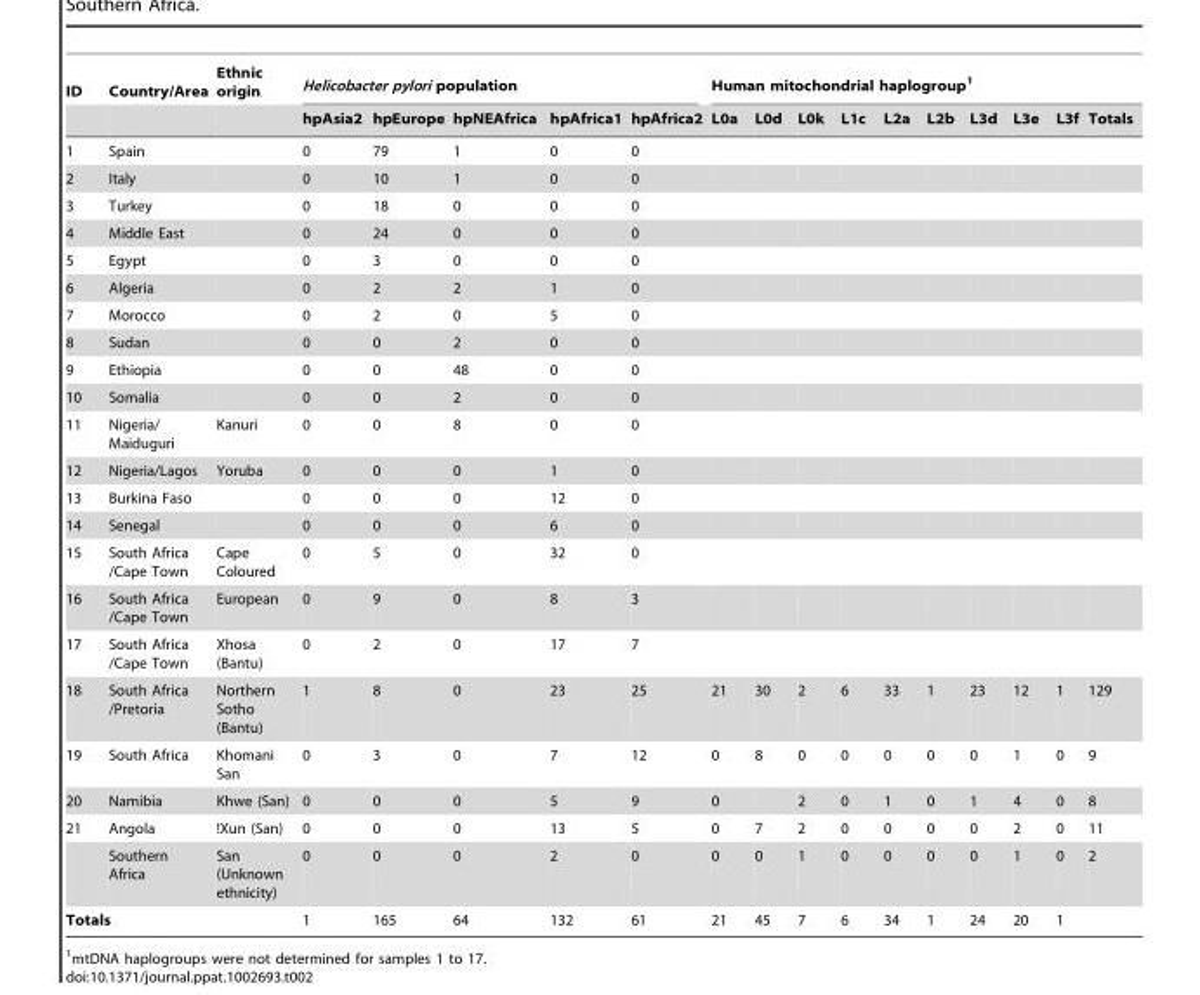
<table><thead><tr><td rowspan="2">ID</td><td rowspan="2">Country/Area</td><td rowspan="2">Ethnic origin</td><td colspan="5">Helicobacter pylori population</td><td colspan="10">Human mitochondrial haplogroup<sup>1</sup></td></tr><tr><td>hpAsia2</td><td>hpEurope</td><td>hpNEAfrica</td><td>hpAfrica1</td><td>hpAfrica2</td><td>L0a</td><td>L0d</td><td>L0k</td><td>L1c</td><td>L2a</td><td>L2b</td><td>L3d</td><td>L3e</td><td>L3f</td><td>Totals</td></tr></thead><tbody><tr><td>1</td><td>Spain</td><td></td><td>0</td><td>79</td><td>1</td><td>0</td><td>0</td><td></td><td></td><td></td><td></td><td></td><td></td><td></td><td></td><td></td><td></td></tr><tr><td>2</td><td>Italy</td><td></td><td>0</td><td>10</td><td>1</td><td>0</td><td>0</td><td></td><td></td><td></td><td></td><td></td><td></td><td></td><td></td><td></td><td></td></tr><tr><td>3</td><td>Turkey</td><td></td><td>0</td><td>18</td><td>0</td><td>0</td><td>0</td><td></td><td></td><td></td><td></td><td></td><td></td><td></td><td></td><td></td><td></td></tr><tr><td>4</td><td>Middle East</td><td></td><td>0</td><td>24</td><td>0</td><td>0</td><td>0</td><td></td><td></td><td></td><td></td><td></td><td></td><td></td><td></td><td></td><td></td></tr><tr><td>5</td><td>Egypt</td><td></td><td>0</td><td>3</td><td>0</td><td>0</td><td>0</td><td></td><td></td><td></td><td></td><td></td><td></td><td></td><td></td><td></td><td></td></tr><tr><td>6</td><td>Algeria</td><td></td><td>0</td><td>2</td><td>2</td><td>1</td><td>0</td><td></td><td></td><td></td><td></td><td></td><td></td><td></td><td></td><td></td><td></td></tr><tr><td>7</td><td>Morocco</td><td></td><td>0</td><td>2</td><td>0</td><td>5</td><td>0</td><td></td><td></td><td></td><td></td><td></td><td></td><td></td><td></td><td></td><td></td></tr><tr><td>8</td><td>Sudan</td><td></td><td>0</td><td>0</td><td>2</td><td>0</td><td>0</td><td></td><td></td><td></td><td></td><td></td><td></td><td></td><td></td><td></td><td></td></tr><tr><td>9</td><td>Ethiopia</td><td></td><td>0</td><td>0</td><td>48</td><td>0</td><td>0</td><td></td><td></td><td></td><td></td><td></td><td></td><td></td><td></td><td></td><td></td></tr><tr><td>10</td><td>Somalia</td><td></td><td>0</td><td>0</td><td>2</td><td>0</td><td>0</td><td></td><td></td><td></td><td></td><td></td><td></td><td></td><td></td><td></td><td></td></tr><tr><td>11</td><td>Nigeria/ Maiduguri</td><td>Kanuri</td><td>0</td><td>0</td><td>8</td><td>0</td><td>0</td><td></td><td></td><td></td><td></td><td></td><td></td><td></td><td></td><td></td><td></td></tr><tr><td>12</td><td>Nigeria/Lagos</td><td>Yoruba</td><td>0</td><td>0</td><td>0</td><td>1</td><td>0</td><td></td><td></td><td></td><td></td><td></td><td></td><td></td><td></td><td></td><td></td></tr><tr><td>13</td><td>Burkina Faso</td><td></td><td>0</td><td>0</td><td>0</td><td>12</td><td>0</td><td></td><td></td><td></td><td></td><td></td><td></td><td></td><td></td><td></td><td></td></tr><tr><td>14</td><td>Senegal</td><td></td><td>0</td><td>0</td><td>0</td><td>6</td><td>0</td><td></td><td></td><td></td><td></td><td></td><td></td><td></td><td></td><td></td><td></td></tr><tr><td>15</td><td>South Africa /Cape Town</td><td>Cape Coloured</td><td>0</td><td>5</td><td>0</td><td>32</td><td>0</td><td></td><td></td><td></td><td></td><td></td><td></td><td></td><td></td><td></td><td></td></tr><tr><td>16</td><td>South Africa /Cape Town</td><td>European</td><td>0</td><td>9</td><td>0</td><td>8</td><td>3</td><td></td><td></td><td></td><td></td><td></td><td></td><td></td><td></td><td></td><td></td></tr><tr><td>17</td><td>South Africa /Cape Town</td><td>Xhosa (Bantu)</td><td>0</td><td>2</td><td>0</td><td>17</td><td>7</td><td></td><td></td><td></td><td></td><td></td><td></td><td></td><td></td><td></td><td></td></tr><tr><td>18</td><td>South Africa /Pretoria</td><td>Northern Sotho (Bantu)</td><td>1</td><td>8</td><td>0</td><td>23</td><td>25</td><td>21</td><td>30</td><td>2</td><td>6</td><td>33</td><td>1</td><td>23</td><td>12</td><td>1</td><td>129</td></tr><tr><td>19</td><td>South Africa</td><td>Khomani San</td><td>0</td><td>3</td><td>0</td><td>7</td><td>12</td><td>0</td><td>8</td><td>0</td><td>0</td><td>0</td><td>0</td><td>0</td><td>1</td><td>0</td><td>9</td></tr><tr><td>20</td><td>Namibia</td><td>Khwe (San)</td><td>0</td><td>0</td><td>0</td><td>5</td><td>9</td><td>0</td><td></td><td>2</td><td>0</td><td>1</td><td>0</td><td>1</td><td>4</td><td>0</td><td>8</td></tr><tr><td rowspan="2">21</td><td>Angola</td><td>!Xun (San)</td><td>0</td><td>0</td><td>0</td><td>13</td><td>5</td><td>0</td><td>7</td><td>2</td><td>0</td><td>0</td><td>0</td><td>0</td><td>2</td><td>0</td><td>11</td></tr><tr><td>Southern Africa</td><td>San (Unknown ethnicity)</td><td>0</td><td>0</td><td>0</td><td>2</td><td>0</td><td>0</td><td>0</td><td>1</td><td>0</td><td>0</td><td>0</td><td>0</td><td>1</td><td>0</td><td>2</td></tr><tr><td colspan="2">Totals</td><td></td><td>1</td><td>165</td><td>64</td><td>132</td><td>61</td><td>21</td><td>45</td><td>7</td><td>6</td><td>34</td><td>1</td><td>24</td><td>20</td><td>1</td><td></td></tr></tbody></table>